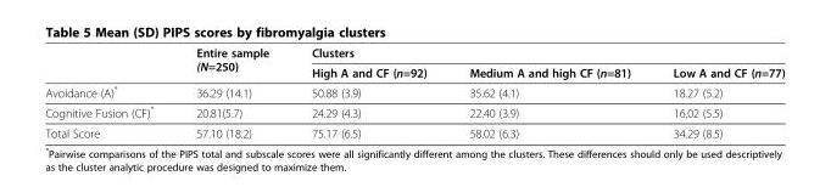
<table><thead><tr><td rowspan="2"></td><td rowspan="2">Entire sample (N=250)</td><td colspan="3">Clusters</td></tr><tr><td>High A and CF (n=92)</td><td>Medium A and high CF (n=81)</td><td>Low A and CF (n=77)</td></tr></thead><tbody><tr><td>Avoidance (A)*</td><td>36.29 (14.1)</td><td>50.88 (3.9)</td><td>35.62 (4.1)</td><td>18.27 (5.2)</td></tr><tr><td>Cognitive Fusion (CF)*</td><td>20.81(5.7)</td><td>24.29 (4.3)</td><td>22.40 (3.9)</td><td>16.02 (5.5)</td></tr><tr><td>Total Score</td><td>57.10 (18.2)</td><td>75.17 (6.5)</td><td>58.02 (6.3)</td><td>34.29 (8.5)</td></tr></tbody></table>